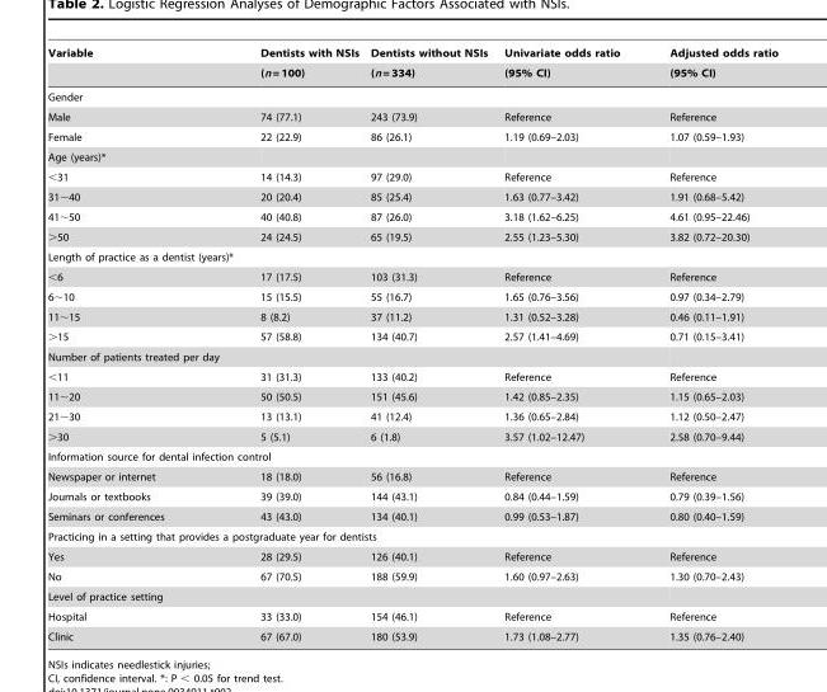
<table><thead><tr><td rowspan="2">Variable</td><td rowspan="2">Dentists with NSIs (n = 100)</td><td rowspan="2">Dentists without NSIs (n = 334)</td><td rowspan="2">Univariate odds ratio (95% CI)</td><td rowspan="2">Adjusted odds ratio (95% CI)</td></tr><tr></tr></thead><tbody><tr><td colspan="5">Gender</td></tr><tr><td>Male</td><td>74 (77.1)</td><td>243 (73.9)</td><td>Reference</td><td>Reference</td></tr><tr><td>Female</td><td>22 (22.9)</td><td>86 (26.1)</td><td>1.19 (0.69–2.03)</td><td>1.07 (0.59–1.93)</td></tr><tr><td colspan="5">Age (years)*</td></tr><tr><td>&lt;31</td><td>14 (14.3)</td><td>97 (29.0)</td><td>Reference</td><td>Reference</td></tr><tr><td>31∼40</td><td>20 (20.4)</td><td>85 (25.4)</td><td>1.63 (0.77–3.42)</td><td>1.91 (0.68–5.42)</td></tr><tr><td>41∼50</td><td>40 (40.8)</td><td>87 (26.0)</td><td>3.18 (1.62–6.25)</td><td>4.61 (0.95–22.46)</td></tr><tr><td>&gt;50</td><td>24 (24.5)</td><td>65 (19.5)</td><td>2.55 (1.23–5.30)</td><td>3.82 (0.72–20.30)</td></tr><tr><td colspan="5">Length of practice as a dentist (years)*</td></tr><tr><td>&lt;6</td><td>17 (17.5)</td><td>103 (31.3)</td><td>Reference</td><td>Reference</td></tr><tr><td>6∼10</td><td>15 (15.5)</td><td>55 (16.7)</td><td>1.65 (0.76–3.56)</td><td>0.97 (0.34–2.79)</td></tr><tr><td>11∼15</td><td>8 (8.2)</td><td>37 (11.2)</td><td>1.31 (0.52–3.28)</td><td>0.46 (0.11–1.91)</td></tr><tr><td>&gt;15</td><td>57 (58.8)</td><td>134 (40.7)</td><td>2.57 (1.41–4.69)</td><td>0.71 (0.15–3.41)</td></tr><tr><td colspan="5">Number of patients treated per day</td></tr><tr><td>&lt;11</td><td>31 (31.3)</td><td>133 (40.2)</td><td>Reference</td><td>Reference</td></tr><tr><td>11∼20</td><td>50 (50.5)</td><td>151 (45.6)</td><td>1.42 (0.85–2.35)</td><td>1.15 (0.65–2.03)</td></tr><tr><td>21∼30</td><td>13 (13.1)</td><td>41 (12.4)</td><td>1.36 (0.65–2.84)</td><td>1.12 (0.50–2.47)</td></tr><tr><td>&gt;30</td><td>5 (5.1)</td><td>6 (1.8)</td><td>3.57 (1.02–12.47)</td><td>2.58 (0.70–9.44)</td></tr><tr><td colspan="5">Information source for dental infection control</td></tr><tr><td>Newspaper or internet</td><td>18 (18.0)</td><td>56 (16.8)</td><td>Reference</td><td>Reference</td></tr><tr><td>Journals or textbooks</td><td>39 (39.0)</td><td>144 (43.1)</td><td>0.84 (0.44–1.59)</td><td>0.79 (0.39–1.56)</td></tr><tr><td>Seminars or conferences</td><td>43 (43.0)</td><td>134 (40.1)</td><td>0.99 (0.53–1.87)</td><td>0.80 (0.40–1.59)</td></tr><tr><td colspan="5">Practicing in a setting that provides a postgraduate year for dentists</td></tr><tr><td>Yes</td><td>28 (29.5)</td><td>126 (40.1)</td><td>Reference</td><td>Reference</td></tr><tr><td>No</td><td>67 (70.5)</td><td>188 (59.9)</td><td>1.60 (0.97–2.63)</td><td>1.30 (0.70–2.43)</td></tr><tr><td colspan="5">Level of practice setting</td></tr><tr><td>Hospital</td><td>33 (33.0)</td><td>154 (46.1)</td><td>Reference</td><td>Reference</td></tr><tr><td>Clinic</td><td>67 (67.0)</td><td>180 (53.9)</td><td>1.73 (1.08–2.77)</td><td>1.35 (0.76–2.40)</td></tr></tbody></table>